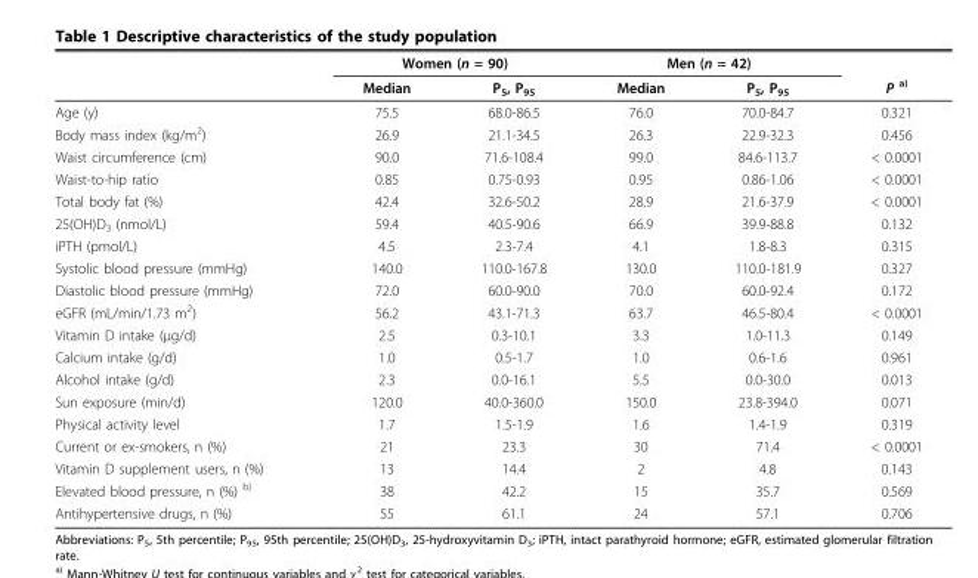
<table><thead><tr><td rowspan="2"></td><td colspan="2">Women (n = 90)</td><td colspan="2">Men (n = 42)</td><td rowspan="2">P a)</td></tr><tr><td>Median</td><td>P5, P95</td><td>Median</td><td>P5, P95</td></tr></thead><tbody><tr><td>Age (y)</td><td>75.5</td><td>68.0-86.5</td><td>76.0</td><td>70.0-84.7</td><td>0.321</td></tr><tr><td>Body mass index (kg/m<sup>2</sup>)</td><td>26.9</td><td>21.1-34.5</td><td>26.3</td><td>22.9-32.3</td><td>0.456</td></tr><tr><td>Waist circumference (cm)</td><td>90.0</td><td>71.6-108.4</td><td>99.0</td><td>84.6-113.7</td><td>&lt; 0.0001</td></tr><tr><td>Waist-to-hip ratio</td><td>0.85</td><td>0.75-0.93</td><td>0.95</td><td>0.86-1.06</td><td>&lt; 0.0001</td></tr><tr><td>Total body fat (%)</td><td>42.4</td><td>32.6-50.2</td><td>28.9</td><td>21.6-37.9</td><td>&lt; 0.0001</td></tr><tr><td>25(OH)D<sub>3</sub> (nmol/L)</td><td>59.4</td><td>40.5-90.6</td><td>66.9</td><td>39.9-88.8</td><td>0.132</td></tr><tr><td>iPTH (pmol/L)</td><td>4.5</td><td>2.3-7.4</td><td>4.1</td><td>1.8-8.3</td><td>0.315</td></tr><tr><td>Systolic blood pressure (mmHg)</td><td>140.0</td><td>110.0-167.8</td><td>130.0</td><td>110.0-181.9</td><td>0.327</td></tr><tr><td>Diastolic blood pressure (mmHg)</td><td>72.0</td><td>60.0-90.0</td><td>70.0</td><td>60.0-92.4</td><td>0.172</td></tr><tr><td>eGFR (mL/min/1.73 m<sup>2</sup>)</td><td>56.2</td><td>43.1-71.3</td><td>63.7</td><td>46.5-80.4</td><td>&lt; 0.0001</td></tr><tr><td>Vitamin D intake (μg/d)</td><td>2.5</td><td>0.3-10.1</td><td>3.3</td><td>1.0-11.3</td><td>0.149</td></tr><tr><td>Calcium intake (g/d)</td><td>1.0</td><td>0.5-1.7</td><td>1.0</td><td>0.6-1.6</td><td>0.961</td></tr><tr><td>Alcohol intake (g/d)</td><td>2.3</td><td>0.0-16.1</td><td>5.5</td><td>0.0-30.0</td><td>0.013</td></tr><tr><td>Sun exposure (min/d)</td><td>120.0</td><td>40.0-360.0</td><td>150.0</td><td>23.8-394.0</td><td>0.071</td></tr><tr><td>Physical activity level</td><td>1.7</td><td>1.5-1.9</td><td>1.6</td><td>1.4-1.9</td><td>0.319</td></tr><tr><td>Current or ex-smokers, n (%)</td><td>21</td><td>23.3</td><td>30</td><td>71.4</td><td>&lt; 0.0001</td></tr><tr><td>Vitamin D supplement users, n (%)</td><td>13</td><td>14.4</td><td>2</td><td>4.8</td><td>0.143</td></tr><tr><td>Elevated blood pressure, n (%) <sup>b)</sup></td><td>38</td><td>42.2</td><td>15</td><td>35.7</td><td>0.569</td></tr><tr><td>Antihypertensive drugs, n (%)</td><td>55</td><td>61.1</td><td>24</td><td>57.1</td><td>0.706</td></tr></tbody></table>